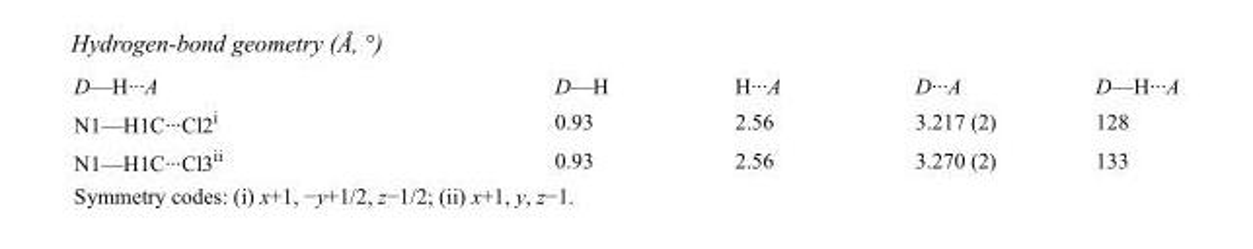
<table><tbody><tr><td>D—H···A</td><td>D—H</td><td>H···A</td><td>D···A</td><td>D—H···A</td></tr><tr><td>N1—H1C···Cl2<sup>i</sup></td><td>0.93</td><td>2.56</td><td>3.217 (2)</td><td>128</td></tr><tr><td>N1—H1C···Cl3<sup>ii</sup></td><td>0.93</td><td>2.56</td><td>3.270 (2)</td><td>133</td></tr></tbody></table>